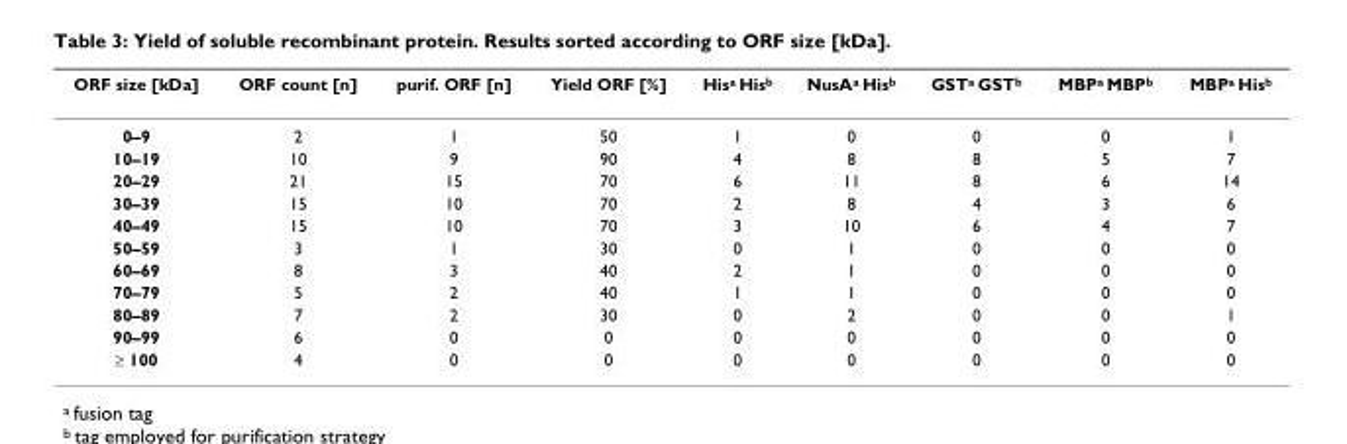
<table><thead><tr><td>ORF size [kDa]</td><td>ORF count [n]</td><td>purif. ORF [n]</td><td>Yield ORF [%]</td><td>His<sup>a</sup> His<sup>b</sup></td><td>NusA<sup>a</sup> His<sup>b</sup></td><td>GST<sup>a</sup> GST<sup>b</sup></td><td>MBP<sup>a</sup> MBP<sup>b</sup></td><td>MBP<sup>a</sup> His<sup>b</sup></td></tr></thead><tbody><tr><td>0–9</td><td>2</td><td>1</td><td>50</td><td>1</td><td>0</td><td>0</td><td>0</td><td>1</td></tr><tr><td>10–19</td><td>10</td><td>9</td><td>90</td><td>4</td><td>8</td><td>8</td><td>5</td><td>7</td></tr><tr><td>20–29</td><td>21</td><td>15</td><td>70</td><td>6</td><td>11</td><td>8</td><td>6</td><td>14</td></tr><tr><td>30–39</td><td>15</td><td>10</td><td>70</td><td>2</td><td>8</td><td>4</td><td>3</td><td>6</td></tr><tr><td>40–49</td><td>15</td><td>10</td><td>70</td><td>3</td><td>10</td><td>6</td><td>4</td><td>7</td></tr><tr><td>50–59</td><td>3</td><td>1</td><td>30</td><td>0</td><td>1</td><td>0</td><td>0</td><td>0</td></tr><tr><td>60–69</td><td>8</td><td>3</td><td>40</td><td>2</td><td>1</td><td>0</td><td>0</td><td>0</td></tr><tr><td>70–79</td><td>5</td><td>2</td><td>40</td><td>1</td><td>1</td><td>0</td><td>0</td><td>0</td></tr><tr><td>80–89</td><td>7</td><td>2</td><td>30</td><td>0</td><td>2</td><td>0</td><td>0</td><td>1</td></tr><tr><td>90–99</td><td>6</td><td>0</td><td>0</td><td>0</td><td>0</td><td>0</td><td>0</td><td>0</td></tr><tr><td>≥ 100</td><td>4</td><td>0</td><td>0</td><td>0</td><td>0</td><td>0</td><td>0</td><td>0</td></tr></tbody></table>